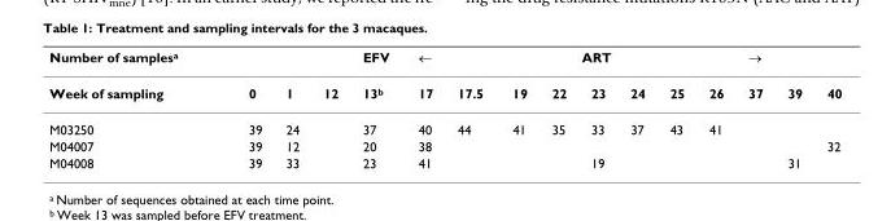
<table><thead><tr><td rowspan="2">Number of samplesa Week of sampling</td><td rowspan="2">0</td><td rowspan="2">1</td><td rowspan="2">12</td><td rowspan="2">EFV 13b</td><td rowspan="2">← 17</td><td colspan="7">ART</td><td rowspan="2">→ 37</td><td rowspan="2">39</td><td rowspan="2">40</td></tr><tr><td>17.5</td><td>19</td><td>22</td><td>23</td><td>24</td><td>25</td><td>26</td></tr></thead><tbody><tr><td>M03250</td><td>39</td><td>24</td><td></td><td>37</td><td>40</td><td>44</td><td>41</td><td>35</td><td>33</td><td>37</td><td>43</td><td>41</td><td></td><td></td><td></td></tr><tr><td>M04007</td><td>39</td><td>12</td><td></td><td>20</td><td>38</td><td></td><td></td><td></td><td></td><td></td><td></td><td></td><td></td><td></td><td>32</td></tr><tr><td>M04008</td><td>39</td><td>33</td><td></td><td>23</td><td>41</td><td></td><td></td><td></td><td>19</td><td></td><td></td><td></td><td></td><td>31</td><td></td></tr></tbody></table>